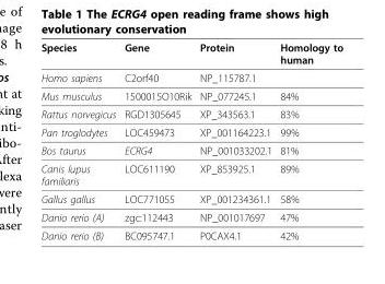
<table><thead><tr><td>Species</td><td>Gene</td><td>Protein</td><td>Homology to human</td></tr></thead><tbody><tr><td>Homo sapiens</td><td>C2orf40</td><td>NP_115787.1</td><td></td></tr><tr><td>Mus musculus</td><td>1500015O10Rik</td><td>NP_077245.1</td><td>84%</td></tr><tr><td>Rattus norvegicus</td><td>RGD1305645</td><td>XP_343563.1</td><td>83%</td></tr><tr><td>Pan troglodytes</td><td>LOC459473</td><td>XP_001164223.1</td><td>99%</td></tr><tr><td>Bos taurus</td><td>ECRG4</td><td>NP_001033202.1</td><td>81%</td></tr><tr><td>Canis lupus familiaris</td><td>LOC611190</td><td>XP_853925.1</td><td>89%</td></tr><tr><td>Gallus gallus</td><td>LOC771055</td><td>XP_001234361.1</td><td>58%</td></tr><tr><td>Danio rerio (A)</td><td>zgc:112443</td><td>NP_001017697</td><td>47%</td></tr><tr><td>Danio rerio (B)</td><td>BC095747.1</td><td>P0CAX4.1</td><td>42%</td></tr></tbody></table>